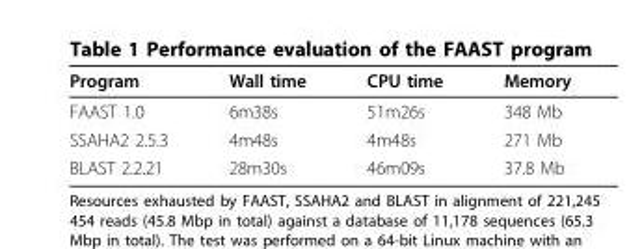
<table><thead><tr><td>Program</td><td>Wall time</td><td>CPU time</td><td>Memory</td></tr></thead><tbody><tr><td>FAAST 1.0</td><td>6m38s</td><td>51m26s</td><td>348 Mb</td></tr><tr><td>SSAHA2 2.5.3</td><td>4m48s</td><td>4m48s</td><td>271 Mb</td></tr><tr><td>BLAST 2.2.21</td><td>28m30s</td><td>46m09s</td><td>37.8 Mb</td></tr></tbody></table>